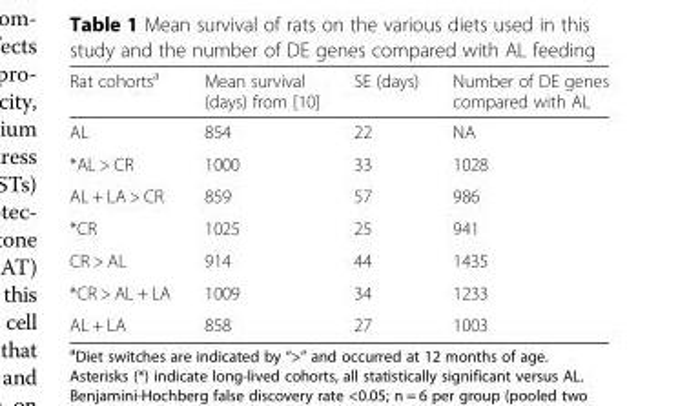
<table><thead><tr><td>Rat cohorts<sup>a</sup></td><td>Mean survival (days) from [10]</td><td>SE (days)</td><td>Number of DE genes compared with AL</td></tr></thead><tbody><tr><td>AL</td><td>854</td><td>22</td><td>NA</td></tr><tr><td>*AL &gt; CR</td><td>1000</td><td>33</td><td>1028</td></tr><tr><td>AL + LA &gt; CR</td><td>859</td><td>57</td><td>986</td></tr><tr><td>*CR</td><td>1025</td><td>25</td><td>941</td></tr><tr><td>CR &gt; AL</td><td>914</td><td>44</td><td>1435</td></tr><tr><td>*CR &gt; AL + LA</td><td>1009</td><td>34</td><td>1233</td></tr><tr><td>AL + LA</td><td>858</td><td>27</td><td>1003</td></tr></tbody></table>